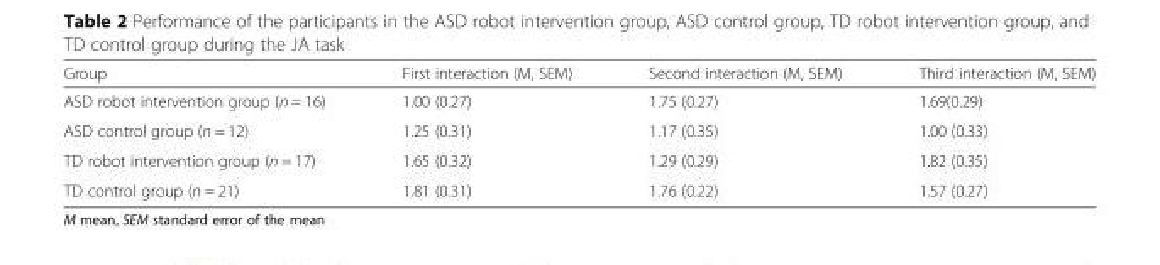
<table><thead><tr><td>Group</td><td>First interaction (M, SEM)</td><td>Second interaction (M, SEM)</td><td>Third interaction (M, SEM)</td></tr></thead><tbody><tr><td>ASD robot intervention group (n = 16)</td><td>1.00 (0.27)</td><td>1.75 (0.27)</td><td>1.69(0.29)</td></tr><tr><td>ASD control group (n = 12)</td><td>1.25 (0.31)</td><td>1.17 (0.35)</td><td>1.00 (0.33)</td></tr><tr><td>TD robot intervention group (n = 17)</td><td>1.65 (0.32)</td><td>1.29 (0.29)</td><td>1.82 (0.35)</td></tr><tr><td>TD control group (n = 21)</td><td>1.81 (0.31)</td><td>1.76 (0.22)</td><td>1.57 (0.27)</td></tr></tbody></table>